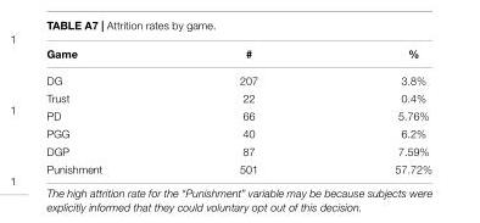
<table><thead><tr><td>Game</td><td>#</td><td>%</td></tr></thead><tbody><tr><td>DG</td><td>207</td><td>3.8%</td></tr><tr><td>Trust</td><td>22</td><td>0.4%</td></tr><tr><td>PD</td><td>66</td><td>5.76%</td></tr><tr><td>PGG</td><td>40</td><td>6.2%</td></tr><tr><td>DGP</td><td>87</td><td>7.59%</td></tr><tr><td>Punishment</td><td>501</td><td>57.72%</td></tr></tbody></table>